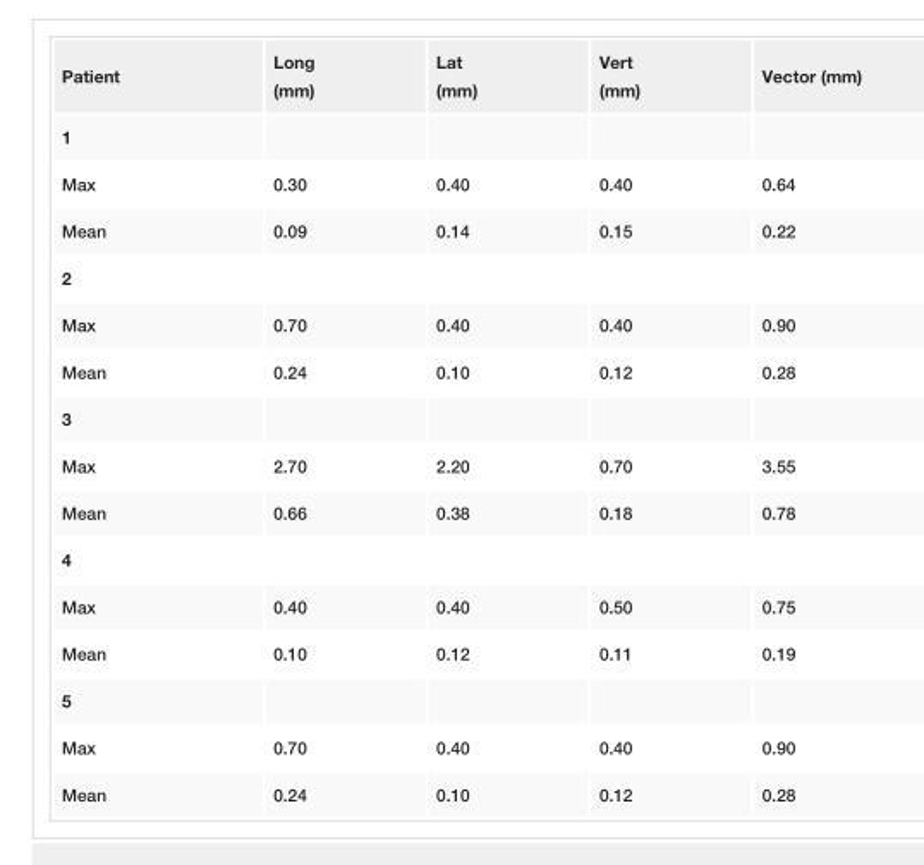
<table><tbody><tr><td>Patient</td><td>Long (mm)</td><td>Lat (mm)</td><td>Vert (mm)</td><td>Vector (mm)</td></tr><tr><td colspan="5">1</td></tr><tr><td>Max</td><td>0.30</td><td>0.40</td><td>0.40</td><td>0.64</td></tr><tr><td>Mean</td><td>0.09</td><td>0.14</td><td>0.15</td><td>0.22</td></tr><tr><td colspan="5">2</td></tr><tr><td>Max</td><td>0.70</td><td>0.40</td><td>0.40</td><td>0.90</td></tr><tr><td>Mean</td><td>0.24</td><td>0.10</td><td>0.12</td><td>0.28</td></tr><tr><td colspan="5">3</td></tr><tr><td>Max</td><td>2.70</td><td>2.20</td><td>0.70</td><td>3.55</td></tr><tr><td>Mean</td><td>0.66</td><td>0.38</td><td>0.18</td><td>0.78</td></tr><tr><td colspan="5">4</td></tr><tr><td>Max</td><td>0.40</td><td>0.40</td><td>0.50</td><td>0.75</td></tr><tr><td>Mean</td><td>0.10</td><td>0.12</td><td>0.11</td><td>0.19</td></tr><tr><td colspan="5">5</td></tr><tr><td>Max</td><td>0.70</td><td>0.40</td><td>0.40</td><td>0.90</td></tr><tr><td>Mean</td><td>0.24</td><td>0.10</td><td>0.12</td><td>0.28</td></tr></tbody></table>